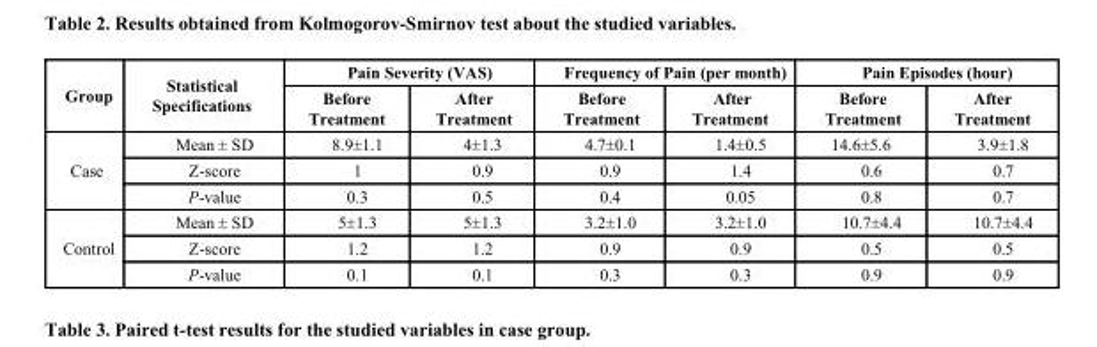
<table><thead><tr><td rowspan="2">Group</td><td rowspan="2">Statistical Specifications</td><td colspan="2">Pain Severity (VAS)</td><td colspan="2">Frequency of Pain (per month)</td><td colspan="2">Pain Episodes (hour)</td></tr><tr><td>Before Treatment</td><td>After Treatment</td><td>Before Treatment</td><td>After Treatment</td><td>Before Treatment</td><td>After Treatment</td></tr></thead><tbody><tr><td rowspan="3">Case</td><td>Mean ± SD</td><td>8.9±1.1</td><td>4±1.3</td><td>4.7±0.1</td><td>1.4±0.5</td><td>14.6±5.6</td><td>3.9±1.8</td></tr><tr><td>Z-score</td><td>1</td><td>0.9</td><td>0.9</td><td>1.4</td><td>0.6</td><td>0.7</td></tr><tr><td>P-value</td><td>0.3</td><td>0.5</td><td>0.4</td><td>0.05</td><td>0.8</td><td>0.7</td></tr><tr><td rowspan="3">Control</td><td>Mean ± SD</td><td>5±1.3</td><td>5±1.3</td><td>3.2±1.0</td><td>3.2±1.0</td><td>10.7±4.4</td><td>10.7±4.4</td></tr><tr><td>Z-score</td><td>1.2</td><td>1.2</td><td>0.9</td><td>0.9</td><td>0.5</td><td>0.5</td></tr><tr><td>P-value</td><td>0.1</td><td>0.1</td><td>0.3</td><td>0.3</td><td>0.9</td><td>0.9</td></tr></tbody></table>